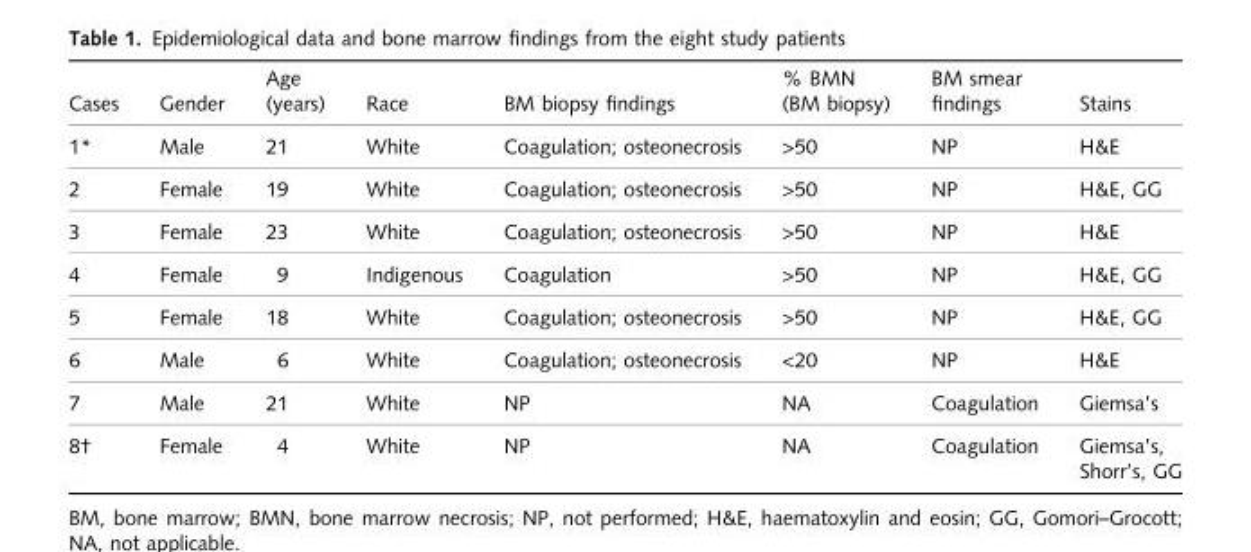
<table><thead><tr><td>Cases</td><td>Gender</td><td>Age (years)</td><td>Race</td><td>BM biopsy findings</td><td>% BMN (BM biopsy)</td><td>BM smear findings</td><td>Stains</td></tr></thead><tbody><tr><td>1*</td><td>Male</td><td>21</td><td>White</td><td>Coagulation; osteonecrosis</td><td>&gt;50</td><td>NP</td><td>H&amp;E</td></tr><tr><td>2</td><td>Female</td><td>19</td><td>White</td><td>Coagulation; osteonecrosis</td><td>&gt;50</td><td>NP</td><td>H&amp;E, GG</td></tr><tr><td>3</td><td>Female</td><td>23</td><td>White</td><td>Coagulation; osteonecrosis</td><td>&gt;50</td><td>NP</td><td>H&amp;E</td></tr><tr><td>4</td><td>Female</td><td>9</td><td>Indigenous</td><td>Coagulation</td><td>&gt;50</td><td>NP</td><td>H&amp;E, GG</td></tr><tr><td>5</td><td>Female</td><td>18</td><td>White</td><td>Coagulation; osteonecrosis</td><td>&gt;50</td><td>NP</td><td>H&amp;E, GG</td></tr><tr><td>6</td><td>Male</td><td>6</td><td>White</td><td>Coagulation; osteonecrosis</td><td>&lt;20</td><td>NP</td><td>H&amp;E</td></tr><tr><td>7</td><td>Male</td><td>21</td><td>White</td><td>NP</td><td>NA</td><td>Coagulation</td><td>Giemsa’s</td></tr><tr><td>8†</td><td>Female</td><td>4</td><td>White</td><td>NP</td><td>NA</td><td>Coagulation</td><td>Giemsa’s, Shorr’s, GG</td></tr></tbody></table>